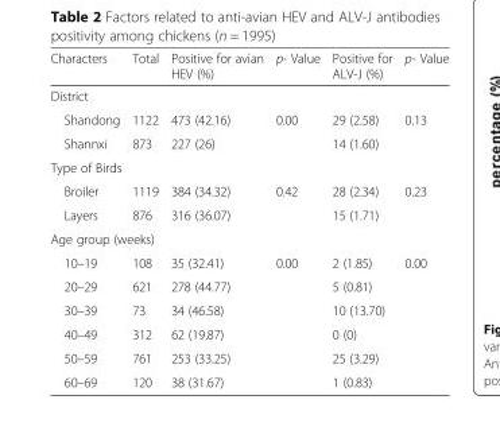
<table><thead><tr><td>Characters</td><td>Total</td><td>Positive for avian HEV (%)</td><td>p- Value</td><td>Positive for ALV-J (%)</td><td>p- Value</td></tr></thead><tbody><tr><td colspan="6">District</td></tr><tr><td>Shandong</td><td>1122</td><td>473 (42.16)</td><td rowspan="2">0.00</td><td>29 (2.58)</td><td rowspan="2">0.13</td></tr><tr><td>Shannxi</td><td>873</td><td>227 (26)</td><td>14 (1.60)</td></tr><tr><td colspan="6">Type of Birds</td></tr><tr><td>Broiler</td><td>1119</td><td>384 (34.32)</td><td rowspan="2">0.42</td><td>28 (2.34)</td><td rowspan="2">0.23</td></tr><tr><td>Layers</td><td>876</td><td>316 (36.07)</td><td>15 (1.71)</td></tr><tr><td colspan="6">Age group (weeks)</td></tr><tr><td>10–19</td><td>108</td><td>35 (32.41)</td><td rowspan="6">0.00</td><td>2 (1.85)</td><td rowspan="6">0.00</td></tr><tr><td>20–29</td><td>621</td><td>278 (44.77)</td><td>5 (0.81)</td></tr><tr><td>30–39</td><td>73</td><td>34 (46.58)</td><td>10 (13.70)</td></tr><tr><td>40–49</td><td>312</td><td>62 (19.87)</td><td>0 (0)</td></tr><tr><td>50–59</td><td>761</td><td>253 (33.25)</td><td>25 (3.29)</td></tr><tr><td>60–69</td><td>120</td><td>38 (31.67)</td><td>1 (0.83)</td></tr></tbody></table>